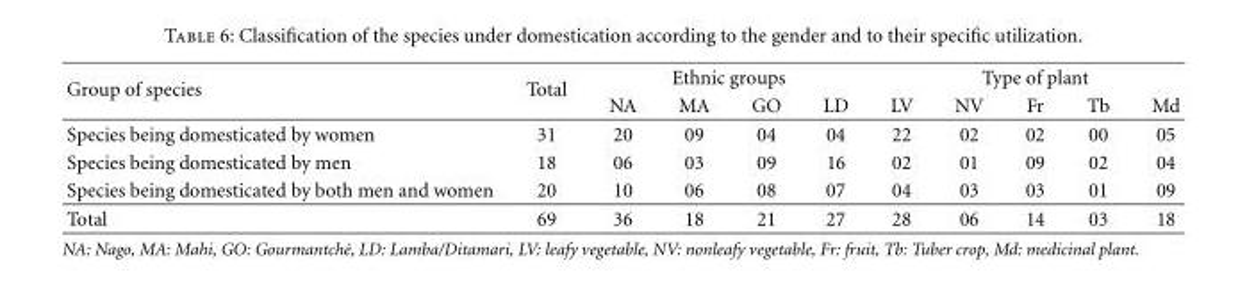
<table><thead><tr><td rowspan="2">Group of species</td><td rowspan="2">Total</td><td colspan="4">Ethnic groups</td><td colspan="5">Type of plant</td></tr><tr><td>NA</td><td>MA</td><td>GO</td><td>LD</td><td>LV</td><td>NV</td><td>Fr</td><td>Tb</td><td>Md</td></tr></thead><tbody><tr><td>Species being domesticated by women</td><td>31</td><td>20</td><td>09</td><td>04</td><td>04</td><td>22</td><td>02</td><td>02</td><td>00</td><td>05</td></tr><tr><td>Species being domesticated by men</td><td>18</td><td>06</td><td>03</td><td>09</td><td>16</td><td>02</td><td>01</td><td>09</td><td>02</td><td>04</td></tr><tr><td>Species being domesticated by both men and women</td><td>20</td><td>10</td><td>06</td><td>08</td><td>07</td><td>04</td><td>03</td><td>03</td><td>01</td><td>09</td></tr><tr><td>Total</td><td>69</td><td>36</td><td>18</td><td>21</td><td>27</td><td>28</td><td>06</td><td>14</td><td>03</td><td>18</td></tr></tbody></table>